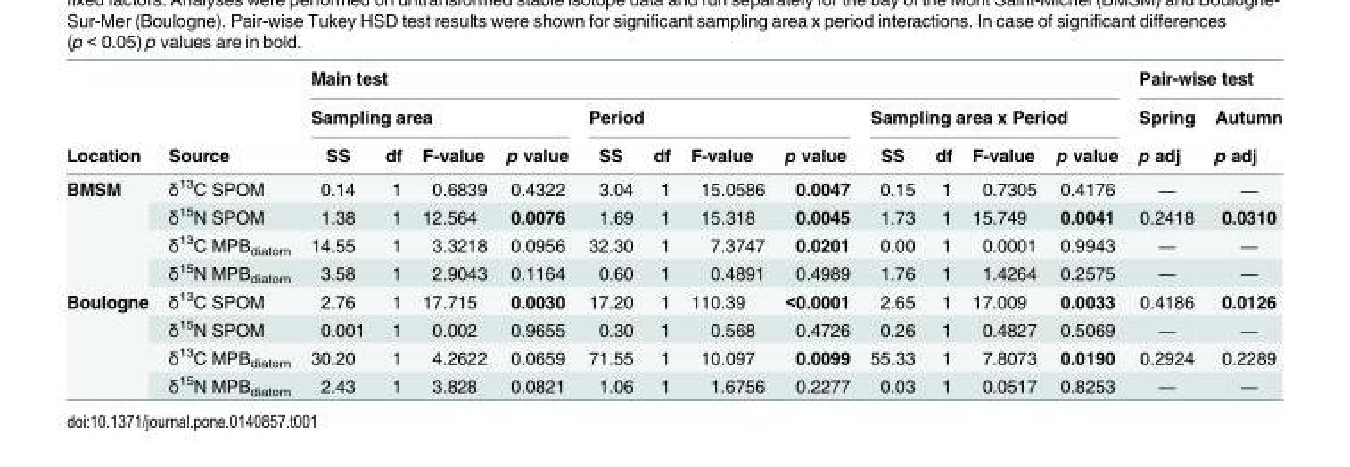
<table><thead><tr><td rowspan="3">Location</td><td rowspan="3">Source</td><td colspan="12">Main test</td><td colspan="2">Pair-wise test</td></tr><tr><td colspan="4">Sampling area</td><td colspan="4">Period</td><td colspan="4">Sampling area x Period</td><td rowspan="2">Spring p adj</td><td rowspan="2">Autumn p adj</td></tr><tr><td>SS</td><td>df</td><td>F-value</td><td>p value</td><td>SS</td><td>df</td><td>F-value</td><td>p value</td><td>SS</td><td>df</td><td>F-value</td><td>p value</td></tr></thead><tbody><tr><td rowspan="4">BMSM</td><td>δ<sup>13</sup>C SPOM</td><td>0.14</td><td>1</td><td>0.6839</td><td>0.4322</td><td>3.04</td><td>1</td><td>15.0586</td><td>0.0047</td><td>0.15</td><td>1</td><td>0.7305</td><td>0.4176</td><td>―</td><td>―</td></tr><tr><td>δ<sup>15</sup>N SPOM</td><td>1.38</td><td>1</td><td>12.564</td><td>0.0076</td><td>1.69</td><td>1</td><td>15.318</td><td>0.0045</td><td>1.73</td><td>1</td><td>15.749</td><td>0.0041</td><td>0.2418</td><td>0.0310</td></tr><tr><td>δ<sup>13</sup>C MPB<sub>diatom</sub></td><td>14.55</td><td>1</td><td>3.3218</td><td>0.0956</td><td>32.30</td><td>1</td><td>7.3747</td><td>0.0201</td><td>0.00</td><td>1</td><td>0.0001</td><td>0.9943</td><td>―</td><td>―</td></tr><tr><td>δ<sup>15</sup>N MPB<sub>diatom</sub></td><td>3.58</td><td>1</td><td>2.9043</td><td>0.1164</td><td>0.60</td><td>1</td><td>0.4891</td><td>0.4989</td><td>1.76</td><td>1</td><td>1.4264</td><td>0.2575</td><td>―</td><td>―</td></tr><tr><td rowspan="4">Boulogne</td><td>δ<sup>13</sup>C SPOM</td><td>2.76</td><td>1</td><td>17.715</td><td>0.0030</td><td>17.20</td><td>1</td><td>110.39</td><td>&lt;0.0001</td><td>2.65</td><td>1</td><td>17.009</td><td>0.0033</td><td>0.4186</td><td>0.0126</td></tr><tr><td>δ<sup>15</sup>N SPOM</td><td>0.001</td><td>1</td><td>0.002</td><td>0.9655</td><td>0.30</td><td>1</td><td>0.568</td><td>0.4726</td><td>0.26</td><td>1</td><td>0.4827</td><td>0.5069</td><td>―</td><td>―</td></tr><tr><td>δ<sup>13</sup>C MPB<sub>diatom</sub></td><td>30.20</td><td>1</td><td>4.2622</td><td>0.0659</td><td>71.55</td><td>1</td><td>10.097</td><td>0.0099</td><td>55.33</td><td>1</td><td>7.8073</td><td>0.0190</td><td>0.2924</td><td>0.2289</td></tr><tr><td>δ<sup>15</sup>N MPB<sub>diatom</sub></td><td>2.43</td><td>1</td><td>3.828</td><td>0.0821</td><td>1.06</td><td>1</td><td>1.6756</td><td>0.2277</td><td>0.03</td><td>1</td><td>0.0517</td><td>0.8253</td><td>―</td><td>―</td></tr></tbody></table>